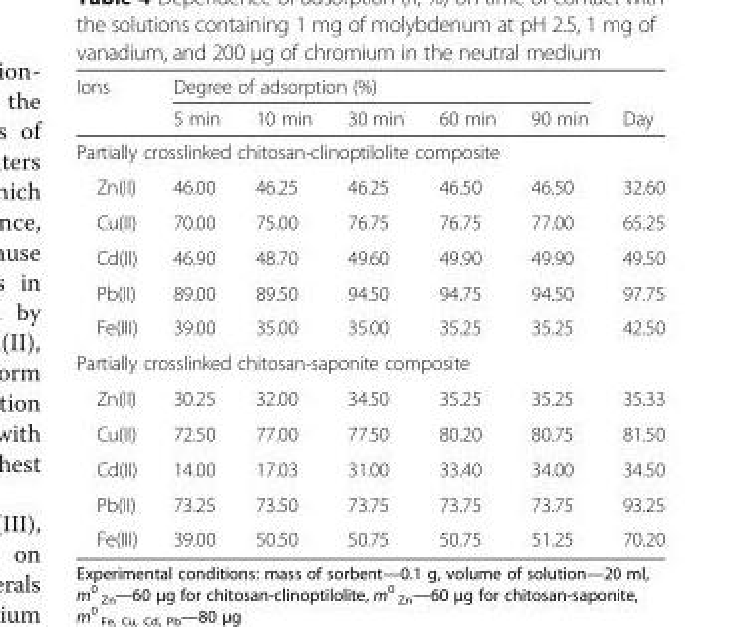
<table><thead><tr><td rowspan="2">Ions</td><td colspan="5">Degree of adsorption (%)</td><td rowspan="2">Day</td></tr><tr><td>5 min</td><td>10 min</td><td>30 min</td><td>60 min</td><td>90 min</td></tr></thead><tbody><tr><td colspan="7">Partially crosslinked chitosan-clinoptilolite composite</td></tr><tr><td>Zn(II)</td><td>46.00</td><td>46.25</td><td>46.25</td><td>46.50</td><td>46.50</td><td>32.60</td></tr><tr><td>Cu(II)</td><td>70.00</td><td>75.00</td><td>76.75</td><td>76.75</td><td>77.00</td><td>65.25</td></tr><tr><td>Cd(II)</td><td>46.90</td><td>48.70</td><td>49.60</td><td>49.90</td><td>49.90</td><td>49.50</td></tr><tr><td>Pb(II)</td><td>89.00</td><td>89.50</td><td>94.50</td><td>94.75</td><td>94.50</td><td>97.75</td></tr><tr><td>Fe(III)</td><td>39.00</td><td>35.00</td><td>35.00</td><td>35.25</td><td>35.25</td><td>42.50</td></tr><tr><td colspan="7">Partially crosslinked chitosan-saponite composite</td></tr><tr><td>Zn(II)</td><td>30.25</td><td>32.00</td><td>34.50</td><td>35.25</td><td>35.25</td><td>35.33</td></tr><tr><td>Cu(II)</td><td>72.50</td><td>77.00</td><td>77.50</td><td>80.20</td><td>80.75</td><td>81.50</td></tr><tr><td>Cd(II)</td><td>14.00</td><td>17.03</td><td>31.00</td><td>33.40</td><td>34.00</td><td>34.50</td></tr><tr><td>Pb(II)</td><td>73.25</td><td>73.50</td><td>73.75</td><td>73.75</td><td>73.75</td><td>93.25</td></tr><tr><td>Fe(III)</td><td>39.00</td><td>50.50</td><td>50.75</td><td>50.75</td><td>51.25</td><td>70.20</td></tr></tbody></table>